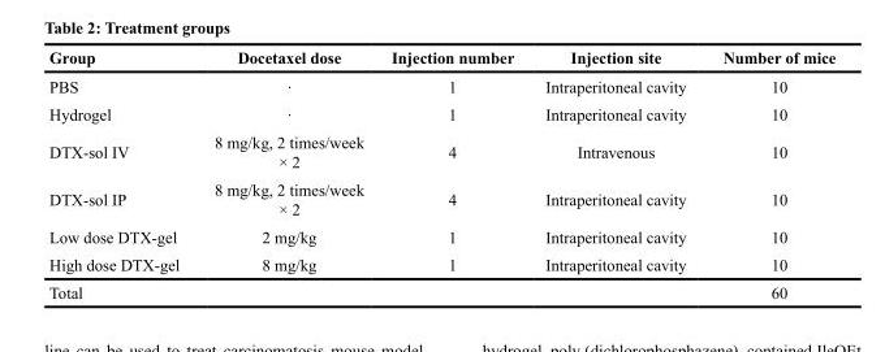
<table><thead><tr><td>Group</td><td>Docetaxel dose</td><td>Injection number</td><td>Injection site</td><td>Number of mice</td></tr></thead><tbody><tr><td>PBS</td><td>∙</td><td>1</td><td>Intraperitoneal cavity</td><td>10</td></tr><tr><td>Hydrogel</td><td>∙</td><td>1</td><td>Intraperitoneal cavity</td><td>10</td></tr><tr><td>DTX-sol IV</td><td>8 mg/kg, 2 times/week × 2</td><td>4</td><td>Intravenous</td><td>10</td></tr><tr><td>DTX-sol IP</td><td>8 mg/kg, 2 times/week × 2</td><td>4</td><td>Intraperitoneal cavity</td><td>10</td></tr><tr><td>Low dose DTX-gel</td><td>2 mg/kg</td><td>1</td><td>Intraperitoneal cavity</td><td>10</td></tr><tr><td>High dose DTX-gel</td><td>8 mg/kg</td><td>1</td><td>Intraperitoneal cavity</td><td>10</td></tr><tr><td>Total</td><td></td><td></td><td></td><td>60</td></tr></tbody></table>